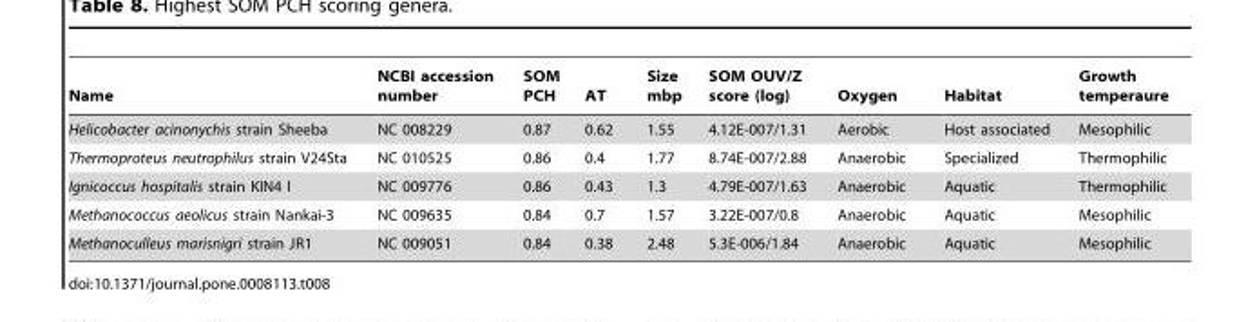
<table><thead><tr><td>Name</td><td>NCBI accession number</td><td>SOM PCH</td><td>AT</td><td>Size mbp</td><td>SOM OUV/Z score (log)</td><td>Oxygen</td><td>Habitat</td><td>Growth temperaure</td></tr></thead><tbody><tr><td>Helicobacter acinonychis strain Sheeba</td><td>NC 008229</td><td>0.87</td><td>0.62</td><td>1.55</td><td>4.12E-007/1.31</td><td>Aerobic</td><td>Host associated</td><td>Mesophilic</td></tr><tr><td>Thermoproteus neutrophilus strain V24Sta</td><td>NC 010525</td><td>0.86</td><td>0.4</td><td>1.77</td><td>8.74E-007/2.88</td><td>Anaerobic</td><td>Specialized</td><td>Thermophilic</td></tr><tr><td>Ignicoccus hospitalis strain KIN4 I</td><td>NC 009776</td><td>0.86</td><td>0.43</td><td>1.3</td><td>4.79E-007/1.63</td><td>Anaerobic</td><td>Aquatic</td><td>Thermophilic</td></tr><tr><td>Methanococcus aeolicus strain Nankai-3</td><td>NC 009635</td><td>0.84</td><td>0.7</td><td>1.57</td><td>3.22E-007/0.8</td><td>Anaerobic</td><td>Aquatic</td><td>Mesophilic</td></tr><tr><td>Methanoculleus marisnigri strain JR1</td><td>NC 009051</td><td>0.84</td><td>0.38</td><td>2.48</td><td>5.3E-006/1.84</td><td>Anaerobic</td><td>Aquatic</td><td>Mesophilic</td></tr></tbody></table>